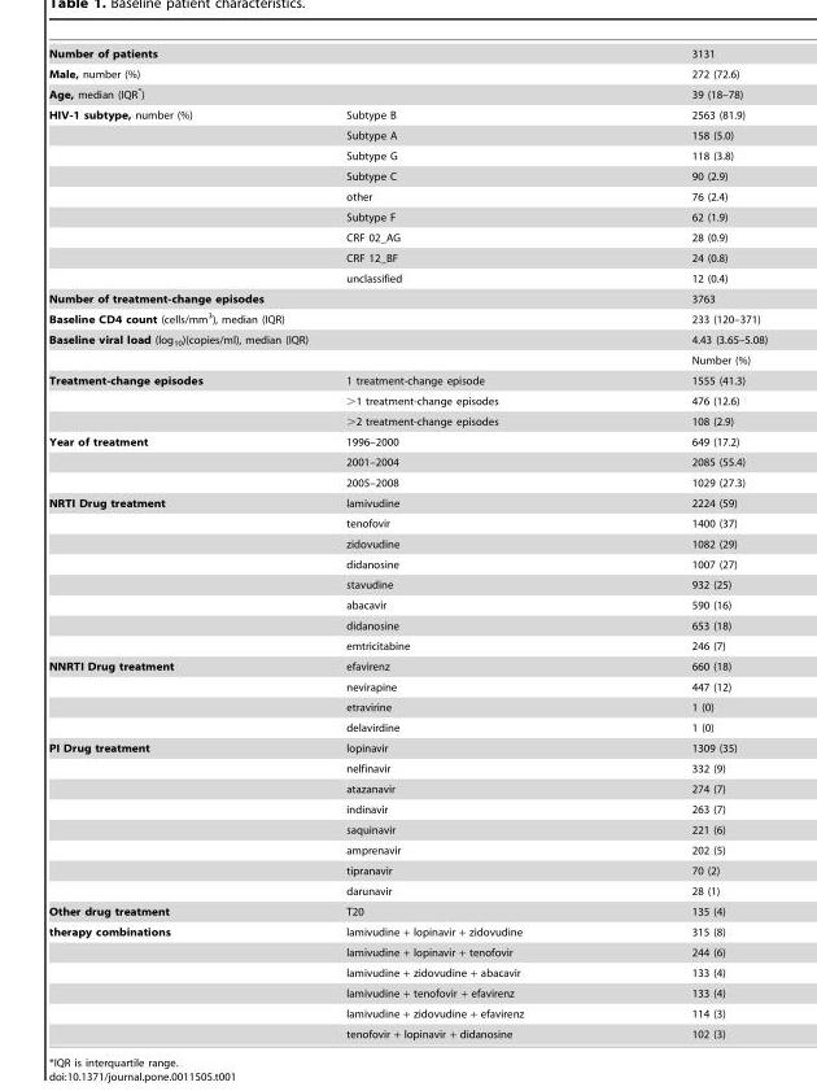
<table><tbody><tr><td colspan="2">Number of patients</td><td>3131</td></tr><tr><td colspan="2">Male, number (%)</td><td>272 (72.6)</td></tr><tr><td colspan="2">Age, median (IQR*)</td><td>39 (18–78)</td></tr><tr><td rowspan="9">HIV-1 subtype, number (%)</td><td>Subtype B</td><td>2563 (81.9)</td></tr><tr><td>Subtype A</td><td>158 (5.0)</td></tr><tr><td>Subtype G</td><td>118 (3.8)</td></tr><tr><td>Subtype C</td><td>90 (2.9)</td></tr><tr><td>other</td><td>76 (2.4)</td></tr><tr><td>Subtype F</td><td>62 (1.9)</td></tr><tr><td>CRF 02_AG</td><td>28 (0.9)</td></tr><tr><td>CRF 12_BF</td><td>24 (0.8)</td></tr><tr><td>unclassified</td><td>12 (0.4)</td></tr><tr><td colspan="2">Number of treatment-change episodes</td><td>3763</td></tr><tr><td colspan="2">Baseline CD4 count (cells/mm<sup>3</sup>), median (IQR)</td><td>233 (120–371)</td></tr><tr><td rowspan="2" colspan="2">Baseline viral load (log<sub>10</sub>)(copies/ml), median (IQR)</td><td>4.43 (3.65–5.08)</td></tr><tr><td>Number (%)</td></tr><tr><td rowspan="3">Treatment-change episodes</td><td>1 treatment-change episode</td><td>1555 (41.3)</td></tr><tr><td>&gt;1 treatment-change episodes</td><td>476 (12.6)</td></tr><tr><td>&gt;2 treatment-change episodes</td><td>108 (2.9)</td></tr><tr><td rowspan="3">Year of treatment</td><td>1996–2000</td><td>649 (17.2)</td></tr><tr><td>2001–2004</td><td>2085 (55.4)</td></tr><tr><td>2005–2008</td><td>1029 (27.3)</td></tr><tr><td rowspan="8">NRTI Drug treatment</td><td>lamivudine</td><td>2224 (59)</td></tr><tr><td>tenofovir</td><td>1400 (37)</td></tr><tr><td>zidovudine</td><td>1082 (29)</td></tr><tr><td>didanosine</td><td>1007 (27)</td></tr><tr><td>stavudine</td><td>932 (25)</td></tr><tr><td>abacavir</td><td>590 (16)</td></tr><tr><td>didanosine</td><td>653 (18)</td></tr><tr><td>emtricitabine</td><td>246 (7)</td></tr><tr><td rowspan="4">NNRTI Drug treatment</td><td>efavirenz</td><td>660 (18)</td></tr><tr><td>nevirapine</td><td>447 (12)</td></tr><tr><td>etravirine</td><td>1 (0)</td></tr><tr><td>delavirdine</td><td>1 (0)</td></tr><tr><td rowspan="8">PI Drug treatment</td><td>lopinavir</td><td>1309 (35)</td></tr><tr><td>nelfinavir</td><td>332 (9)</td></tr><tr><td>atazanavir</td><td>274 (7)</td></tr><tr><td>indinavir</td><td>263 (7)</td></tr><tr><td>saquinavir</td><td>221 (6)</td></tr><tr><td>amprenavir</td><td>202 (5)</td></tr><tr><td>tipranavir</td><td>70 (2)</td></tr><tr><td>darunavir</td><td>28 (1)</td></tr><tr><td>Other drug treatment</td><td>T20</td><td>135 (4)</td></tr><tr><td rowspan="6">therapy combinations</td><td>lamivudine + lopinavir + zidovudine</td><td>315 (8)</td></tr><tr><td>lamivudine + lopinavir + tenofovir</td><td>244 (6)</td></tr><tr><td>lamivudine + zidovudine + abacavir</td><td>133 (4)</td></tr><tr><td>lamivudine + tenofovir + efavirenz</td><td>133 (4)</td></tr><tr><td>lamivudine + zidovudine + efavirenz</td><td>114 (3)</td></tr><tr><td>tenofovir + lopinavir + didanosine</td><td>102 (3)</td></tr></tbody></table>